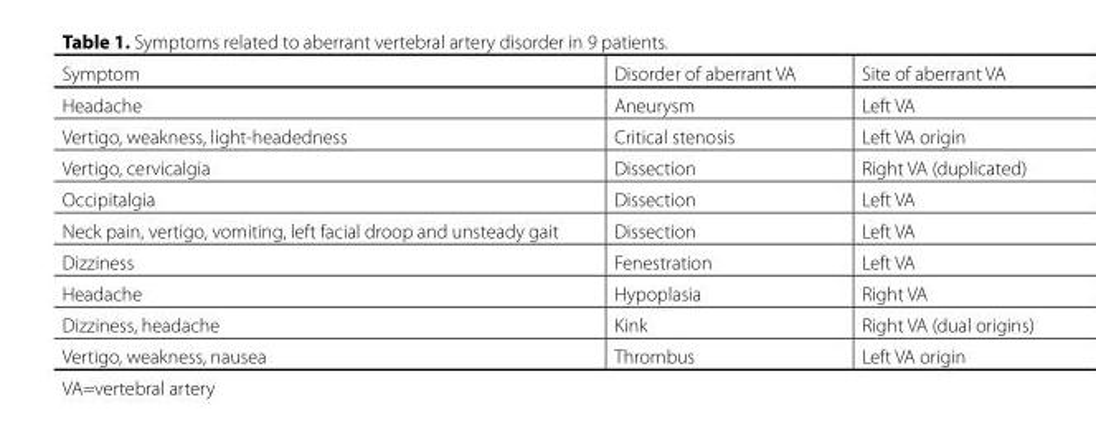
<table><thead><tr><td>Symptom</td><td>Disorder of aberrant VA</td><td>Site of aberrant VA</td></tr></thead><tbody><tr><td>Headache</td><td>Aneurysm</td><td>Left VA</td></tr><tr><td>Vertigo, weakness, light-headedness</td><td>Critical stenosis</td><td>Left VA origin</td></tr><tr><td>Vertigo, cervicalgia</td><td>Dissection</td><td>Right VA (duplicated)</td></tr><tr><td>Occipitalgia</td><td>Dissection</td><td>Left VA</td></tr><tr><td>Neck pain, vertigo, vomiting, left facial droop and unsteady gait</td><td>Dissection</td><td>Left VA</td></tr><tr><td>Dizziness</td><td>Fenestration</td><td>Left VA</td></tr><tr><td>Headache</td><td>Hypoplasia</td><td>Right VA</td></tr><tr><td>Dizziness, headache</td><td>Kink</td><td>Right VA (dual origins)</td></tr><tr><td>Vertigo, weakness, nausea</td><td>Thrombus</td><td>Left VA origin</td></tr></tbody></table>